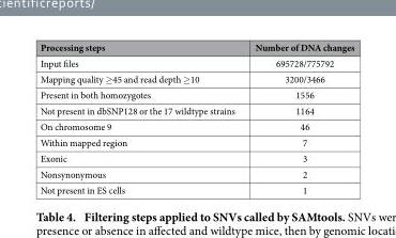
<table><thead><tr><td>Processing steps</td><td>Number of DNA changes</td></tr></thead><tbody><tr><td>Input files</td><td>695728/775792</td></tr><tr><td>Mapping quality ≥45 and read depth ≥10</td><td>3200/3466</td></tr><tr><td>Present in both homozygotes</td><td>1556</td></tr><tr><td>Not present in dbSNP128 or the 17 wildtype strains</td><td>1164</td></tr><tr><td>On chromosome 9</td><td>46</td></tr><tr><td>Within mapped region</td><td>7</td></tr><tr><td>Exonic</td><td>3</td></tr><tr><td>Nonsynonymous</td><td>2</td></tr><tr><td>Not present in ES cells</td><td>1</td></tr></tbody></table>